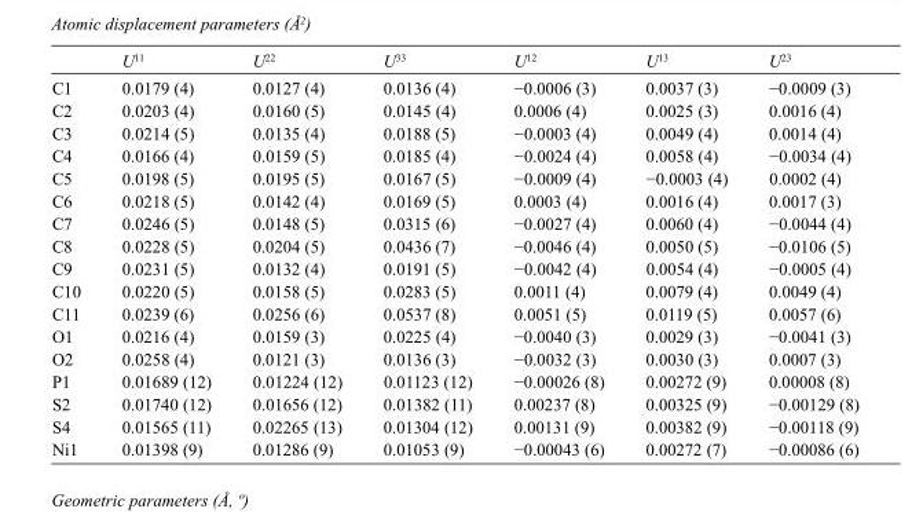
<table><thead><tr><td></td><td>U<sup>11</sup></td><td>U<sup>22</sup></td><td>U<sup>33</sup></td><td>U<sup>12</sup></td><td>U<sup>13</sup></td><td>U<sup>23</sup></td></tr></thead><tbody><tr><td>C1</td><td>0.0179 (4)</td><td>0.0127 (4)</td><td>0.0136 (4)</td><td>−0.0006 (3)</td><td>0.0037 (3)</td><td>−0.0009 (3)</td></tr><tr><td>C2</td><td>0.0203 (4)</td><td>0.0160 (5)</td><td>0.0145 (4)</td><td>0.0006 (4)</td><td>0.0025 (3)</td><td>0.0016 (4)</td></tr><tr><td>C3</td><td>0.0214 (5)</td><td>0.0135 (4)</td><td>0.0188 (5)</td><td>−0.0003 (4)</td><td>0.0049 (4)</td><td>0.0014 (4)</td></tr><tr><td>C4</td><td>0.0166 (4)</td><td>0.0159 (5)</td><td>0.0185 (4)</td><td>−0.0024 (4)</td><td>0.0058 (4)</td><td>−0.0034 (4)</td></tr><tr><td>C5</td><td>0.0198 (5)</td><td>0.0195 (5)</td><td>0.0167 (5)</td><td>−0.0009 (4)</td><td>−0.0003 (4)</td><td>0.0002 (4)</td></tr><tr><td>C6</td><td>0.0218 (5)</td><td>0.0142 (4)</td><td>0.0169 (5)</td><td>0.0003 (4)</td><td>0.0016 (4)</td><td>0.0017 (3)</td></tr><tr><td>C7</td><td>0.0246 (5)</td><td>0.0148 (5)</td><td>0.0315 (6)</td><td>−0.0027 (4)</td><td>0.0060 (4)</td><td>−0.0044 (4)</td></tr><tr><td>C8</td><td>0.0228 (5)</td><td>0.0204 (5)</td><td>0.0436 (7)</td><td>−0.0046 (4)</td><td>0.0050 (5)</td><td>−0.0106 (5)</td></tr><tr><td>C9</td><td>0.0231 (5)</td><td>0.0132 (4)</td><td>0.0191 (5)</td><td>−0.0042 (4)</td><td>0.0054 (4)</td><td>−0.0005 (4)</td></tr><tr><td>C10</td><td>0.0220 (5)</td><td>0.0158 (5)</td><td>0.0283 (5)</td><td>0.0011 (4)</td><td>0.0079 (4)</td><td>0.0049 (4)</td></tr><tr><td>C11</td><td>0.0239 (6)</td><td>0.0256 (6)</td><td>0.0537 (8)</td><td>0.0051 (5)</td><td>0.0119 (5)</td><td>0.0057 (6)</td></tr><tr><td>O1</td><td>0.0216 (4)</td><td>0.0159 (3)</td><td>0.0225 (4)</td><td>−0.0040 (3)</td><td>0.0029 (3)</td><td>−0.0041 (3)</td></tr><tr><td>O2</td><td>0.0258 (4)</td><td>0.0121 (3)</td><td>0.0136 (3)</td><td>−0.0032 (3)</td><td>0.0030 (3)</td><td>0.0007 (3)</td></tr><tr><td>P1</td><td>0.01689 (12)</td><td>0.01224 (12)</td><td>0.01123 (12)</td><td>−0.00026 (8)</td><td>0.00272 (9)</td><td>0.00008 (8)</td></tr><tr><td>S2</td><td>0.01740 (12)</td><td>0.01656 (12)</td><td>0.01382 (11)</td><td>0.00237 (8)</td><td>0.00325 (9)</td><td>−0.00129 (8)</td></tr><tr><td>S4</td><td>0.01565 (11)</td><td>0.02265 (13)</td><td>0.01304 (12)</td><td>0.00131 (9)</td><td>0.00382 (9)</td><td>−0.00118 (9)</td></tr><tr><td>Ni1</td><td>0.01398 (9)</td><td>0.01286 (9)</td><td>0.01053 (9)</td><td>−0.00043 (6)</td><td>0.00272 (7)</td><td>−0.00086 (6)</td></tr></tbody></table>